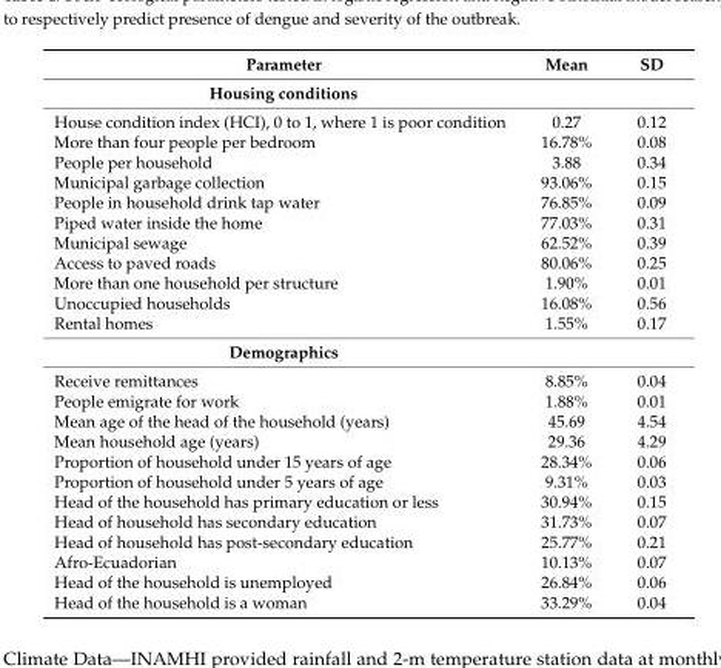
<table><thead><tr><td rowspan="2">Parameter Housing conditions</td><td rowspan="2">Mean</td><td rowspan="2">SD</td></tr><tr></tr></thead><tbody><tr><td>House condition index (HCI), 0 to 1, where 1 is poor condition</td><td>0.27</td><td>0.12</td></tr><tr><td>More than four people per bedroom</td><td>16.78%</td><td>0.08</td></tr><tr><td>People per household</td><td>3.88</td><td>0.34</td></tr><tr><td>Municipal garbage collection</td><td>93.06%</td><td>0.15</td></tr><tr><td>People in household drink tap water</td><td>76.85%</td><td>0.09</td></tr><tr><td>Piped water inside the home</td><td>77.03%</td><td>0.31</td></tr><tr><td>Municipal sewage</td><td>62.52%</td><td>0.39</td></tr><tr><td>Access to paved roads</td><td>80.06%</td><td>0.25</td></tr><tr><td>More than one household per structure</td><td>1.90%</td><td>0.01</td></tr><tr><td>Unoccupied households</td><td>16.08%</td><td>0.56</td></tr><tr><td>Rental homes</td><td>1.55%</td><td>0.17</td></tr><tr><td colspan="3">Demographics</td></tr><tr><td>Receive remittances</td><td>8.85%</td><td>0.04</td></tr><tr><td>People emigrate for work</td><td>1.88%</td><td>0.01</td></tr><tr><td>Mean age of the head of the household (years)</td><td>45.69</td><td>4.54</td></tr><tr><td>Mean household age (years)</td><td>29.36</td><td>4.29</td></tr><tr><td>Proportion of household under 15 years of age</td><td>28.34%</td><td>0.06</td></tr><tr><td>Proportion of household under 5 years of age</td><td>9.31%</td><td>0.03</td></tr><tr><td>Head of the household has primary education or less</td><td>30.94%</td><td>0.15</td></tr><tr><td>Head of household has secondary education</td><td>31.73%</td><td>0.07</td></tr><tr><td>Head of household has post-secondary education</td><td>25.77%</td><td>0.21</td></tr><tr><td>Afro-Ecuadorian</td><td>10.13%</td><td>0.07</td></tr><tr><td>Head of the household is unemployed</td><td>26.84%</td><td>0.06</td></tr><tr><td>Head of the household is a woman</td><td>33.29%</td><td>0.04</td></tr></tbody></table>